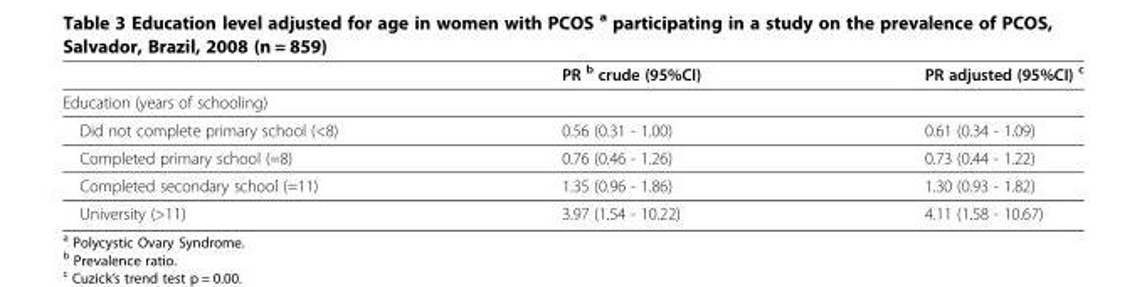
<table><thead><tr><td></td><td>PR <sup>b</sup> crude (95%CI)</td><td>PR adjusted (95%CI) <sup>c</sup></td></tr></thead><tbody><tr><td colspan="3">Education (years of schooling)</td></tr><tr><td>Did not complete primary school (&lt;8)</td><td>0.56 (0.31 - 1.00)</td><td>0.61 (0.34 - 1.09)</td></tr><tr><td>Completed primary school (=8)</td><td>0.76 (0.46 - 1.26)</td><td>0.73 (0.44 - 1.22)</td></tr><tr><td>Completed secondary school (=11)</td><td>1.35 (0.96 - 1.86)</td><td>1.30 (0.93 - 1.82)</td></tr><tr><td>University (&gt;11)</td><td>3.97 (1.54 - 10.22)</td><td>4.11 (1.58 - 10.67)</td></tr></tbody></table>